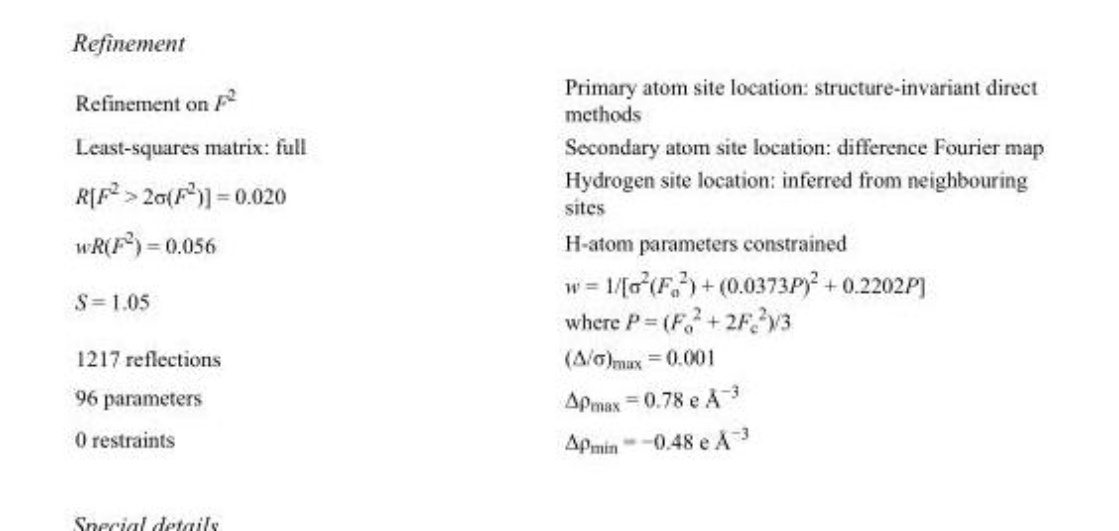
<table><tbody><tr><td>Refinement on F<sup>2</sup></td><td>Primary atom site location: structure-invariant direct methods</td></tr><tr><td>Least-squares matrix: full</td><td>Secondary atom site location: difference Fourier map</td></tr><tr><td>R[F<sup>2</sup> &gt; 2σ(F<sup>2</sup>)] = 0.020</td><td>Hydrogen site location: inferred from neighbouring sites</td></tr><tr><td>wR(F<sup>2</sup>) = 0.056</td><td>H-atom parameters constrained</td></tr><tr><td>S = 1.05</td><td>w = 1/[σ<sup>2</sup>(F<sub>o</sub> <sup>2</sup>) + (0.0373P)<sup>2</sup> + 0.2202P] where P = (F<sub>o</sub> <sup>2</sup> + 2F<sub>c</sub> <sup>2</sup>)/3</td></tr><tr><td>1217 reflections</td><td>(Δ/σ)<sub>max</sub> = 0.001</td></tr><tr><td>96 parameters</td><td>Δρ<sub>max</sub> = 0.78 e Å<sup>−3</sup></td></tr><tr><td>0 restraints</td><td>Δρ<sub>min</sub> = −0.48 e Å<sup>−3</sup></td></tr></tbody></table>